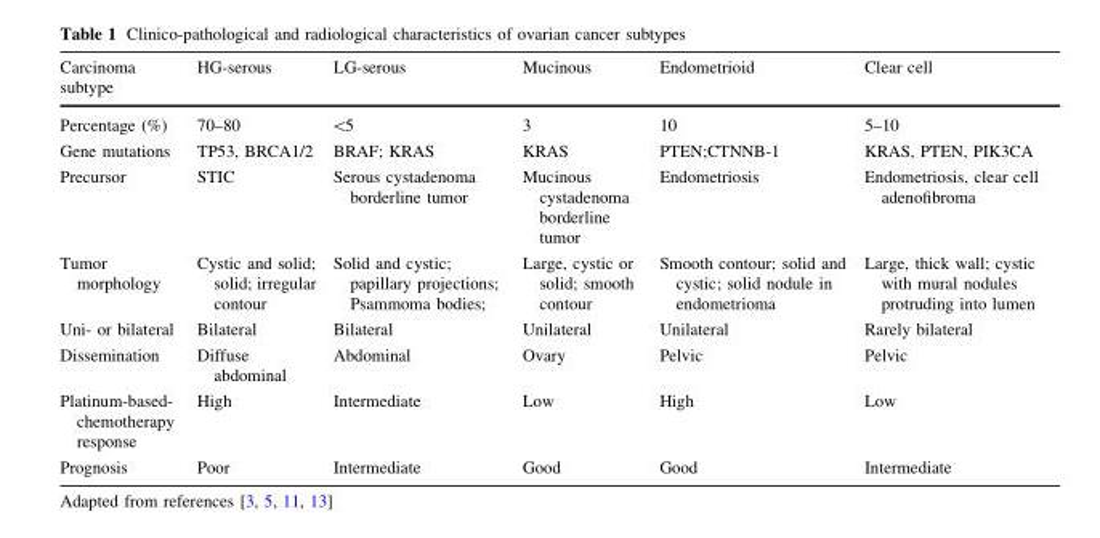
<table><thead><tr><td>Carcinoma subtype</td><td>HG-serous</td><td>LG-serous</td><td>Mucinous</td><td>Endometrioid</td><td>Clear cell</td></tr></thead><tbody><tr><td>Percentage (%)</td><td>70–80</td><td>&lt;5</td><td>3</td><td>10</td><td>5–10</td></tr><tr><td>Gene mutations</td><td>TP53, BRCA1/2</td><td>BRAF; KRAS</td><td>KRAS</td><td>PTEN;CTNNB-1</td><td>KRAS, PTEN, PIK3CA</td></tr><tr><td>Precursor</td><td>STIC</td><td>Serous cystadenoma borderline tumor</td><td>Mucinous cystadenoma borderline tumor</td><td>Endometriosis</td><td>Endometriosis, clear cell adenofibroma</td></tr><tr><td>Tumor morphology</td><td>Cystic and solid; solid; irregular contour</td><td>Solid and cystic; papillary projections; Psammoma bodies;</td><td>Large, cystic or solid; smooth contour</td><td>Smooth contour; solid and cystic; solid nodule in endometrioma</td><td>Large, thick wall; cystic with mural nodules protruding into lumen</td></tr><tr><td>Uni- or bilateral</td><td>Bilateral</td><td>Bilateral</td><td>Unilateral</td><td>Unilateral</td><td>Rarely bilateral</td></tr><tr><td>Dissemination</td><td>Diffuse abdominal</td><td>Abdominal</td><td>Ovary</td><td>Pelvic</td><td>Pelvic</td></tr><tr><td>Platinum-based- chemotherapy response</td><td>High</td><td>Intermediate</td><td>Low</td><td>High</td><td>Low</td></tr><tr><td>Prognosis</td><td>Poor</td><td>Intermediate</td><td>Good</td><td>Good</td><td>Intermediate</td></tr></tbody></table>